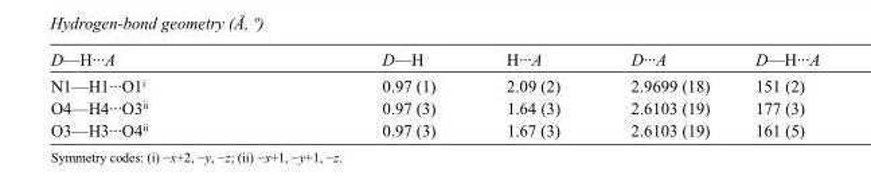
<table><tbody><tr><td>D—H···A</td><td>D—H</td><td>H···A</td><td>D···A</td><td>D—H···A</td></tr><tr><td>N1—H1···O1<sup>i</sup></td><td>0.97 (1)</td><td>2.09 (2)</td><td>2.9699 (18)</td><td>151 (2)</td></tr><tr><td>O4—H4···O3<sup>ii</sup></td><td>0.97 (3)</td><td>1.64 (3)</td><td>2.6103 (19)</td><td>177 (3)</td></tr><tr><td>O3—H3···O4<sup>ii</sup></td><td>0.97 (3)</td><td>1.67 (3)</td><td>2.6103 (19)</td><td>161 (5)</td></tr></tbody></table>